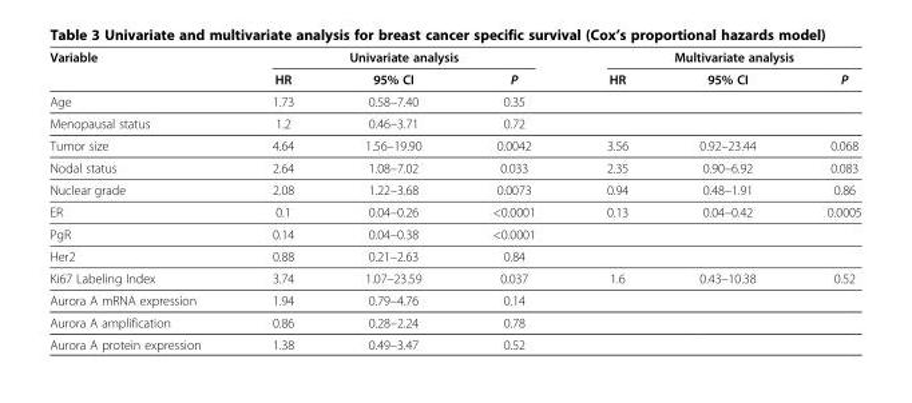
<table><thead><tr><td rowspan="2">Variable</td><td colspan="3">Univariate analysis</td><td colspan="3">Multivariate analysis</td></tr><tr><td>HR</td><td>95% CI</td><td>P</td><td>HR</td><td>95% CI</td><td>P</td></tr></thead><tbody><tr><td>Age</td><td>1.73</td><td>0.58–7.40</td><td>0.35</td><td></td><td></td><td></td></tr><tr><td>Menopausal status</td><td>1.2</td><td>0.46–3.71</td><td>0.72</td><td></td><td></td><td></td></tr><tr><td>Tumor size</td><td>4.64</td><td>1.56–19.90</td><td>0.0042</td><td>3.56</td><td>0.92–23.44</td><td>0.068</td></tr><tr><td>Nodal status</td><td>2.64</td><td>1.08–7.02</td><td>0.033</td><td>2.35</td><td>0.90–6.92</td><td>0.083</td></tr><tr><td>Nuclear grade</td><td>2.08</td><td>1.22–3.68</td><td>0.0073</td><td>0.94</td><td>0.48–1.91</td><td>0.86</td></tr><tr><td>ER</td><td>0.1</td><td>0.04–0.26</td><td>&lt;0.0001</td><td>0.13</td><td>0.04–0.42</td><td>0.0005</td></tr><tr><td>PgR</td><td>0.14</td><td>0.04–0.38</td><td>&lt;0.0001</td><td></td><td></td><td></td></tr><tr><td>Her2</td><td>0.88</td><td>0.21–2.63</td><td>0.84</td><td></td><td></td><td></td></tr><tr><td>Ki67 Labeling Index</td><td>3.74</td><td>1.07–23.59</td><td>0.037</td><td>1.6</td><td>0.43–10.38</td><td>0.52</td></tr><tr><td>Aurora A mRNA expression</td><td>1.94</td><td>0.79–4.76</td><td>0.14</td><td></td><td></td><td></td></tr><tr><td>Aurora A amplification</td><td>0.86</td><td>0.28–2.24</td><td>0.78</td><td></td><td></td><td></td></tr><tr><td>Aurora A protein expression</td><td>1.38</td><td>0.49–3.47</td><td>0.52</td><td></td><td></td><td></td></tr></tbody></table>